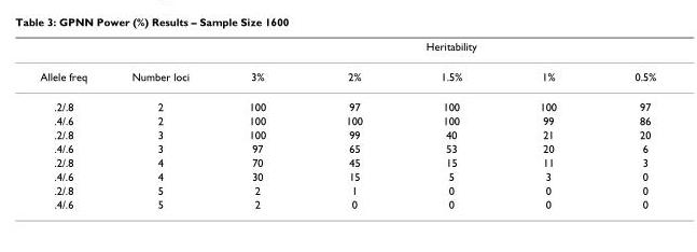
<table><thead><tr><td rowspan="2">Allele freq</td><td rowspan="2">Number loci</td><td colspan="5">Heritability</td></tr><tr><td>3%</td><td>2%</td><td>1.5%</td><td>1%</td><td>0.5%</td></tr></thead><tbody><tr><td>.2/.8</td><td>2</td><td>100</td><td>97</td><td>100</td><td>100</td><td>97</td></tr><tr><td>.4/.6</td><td>2</td><td>100</td><td>100</td><td>100</td><td>99</td><td>86</td></tr><tr><td>.2/.8</td><td>3</td><td>100</td><td>99</td><td>40</td><td>21</td><td>20</td></tr><tr><td>.4/.6</td><td>3</td><td>97</td><td>65</td><td>53</td><td>20</td><td>6</td></tr><tr><td>.2/.8</td><td>4</td><td>70</td><td>45</td><td>15</td><td>11</td><td>3</td></tr><tr><td>.4/.6</td><td>4</td><td>30</td><td>15</td><td>5</td><td>3</td><td>0</td></tr><tr><td>.2/.8</td><td>5</td><td>2</td><td>1</td><td>0</td><td>0</td><td>0</td></tr><tr><td>.4/.6</td><td>5</td><td>2</td><td>0</td><td>0</td><td>0</td><td>0</td></tr></tbody></table>